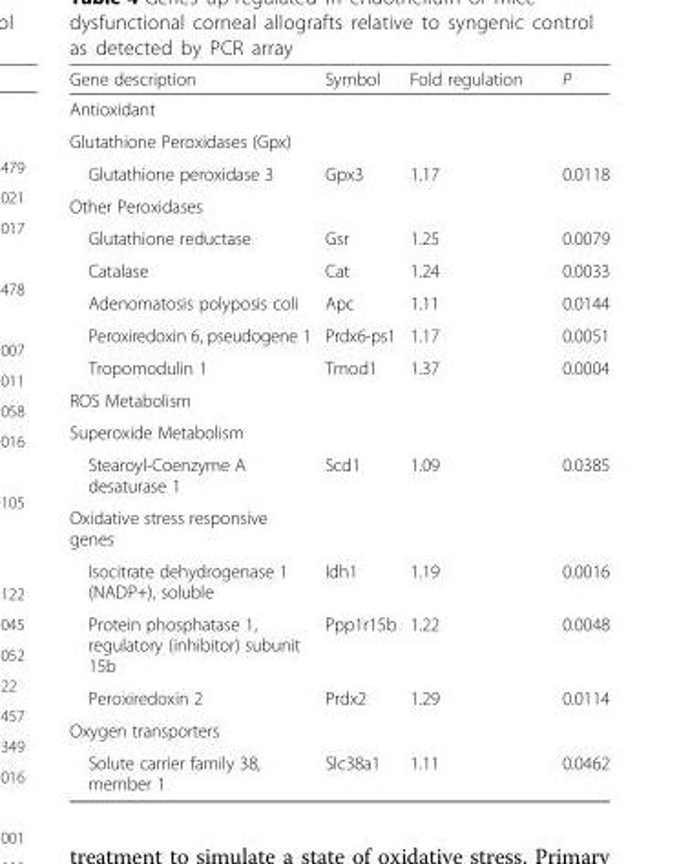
<table><thead><tr><td>Gene description</td><td>Symbol</td><td>Fold regulation</td><td>P</td></tr></thead><tbody><tr><td colspan="4">Antioxidant</td></tr><tr><td colspan="4">Glutathione Peroxidases (Gpx)</td></tr><tr><td>Glutathione peroxidase 3</td><td>Gpx3</td><td>1.17</td><td>0.0118</td></tr><tr><td colspan="4">Other Peroxidases</td></tr><tr><td>Glutathione reductase</td><td>Gsr</td><td>1.25</td><td>0.0079</td></tr><tr><td>Catalase</td><td>Cat</td><td>1.24</td><td>0.0033</td></tr><tr><td>Adenomatosis polyposis coli</td><td>Apc</td><td>1.11</td><td>0.0144</td></tr><tr><td>Peroxiredoxin 6, pseudogene 1</td><td>Prdx6-ps1</td><td>1.17</td><td>0.0051</td></tr><tr><td>Tropomodulin 1</td><td>Tmod1</td><td>1.37</td><td>0.0004</td></tr><tr><td colspan="4">ROS Metabolism</td></tr><tr><td colspan="4">Superoxide Metabolism</td></tr><tr><td>Stearoyl-Coenzyme A desaturase 1</td><td>Scd1</td><td>1.09</td><td>0.0385</td></tr><tr><td colspan="4">Oxidative stress responsive genes</td></tr><tr><td>Isocitrate dehydrogenase 1 (NADP+), soluble</td><td>Idh1</td><td>1.19</td><td>0.0016</td></tr><tr><td>Protein phosphatase 1, regulatory (inhibitor) subunit 15b</td><td>Ppp1r15b</td><td>1.22</td><td>0.0048</td></tr><tr><td>Peroxiredoxin 2</td><td>Prdx2</td><td>1.29</td><td>0.0114</td></tr><tr><td colspan="4">Oxygen transporters</td></tr><tr><td>Solute carrier family 38, member 1</td><td>Slc38a1</td><td>1.11</td><td>0.0462</td></tr></tbody></table>